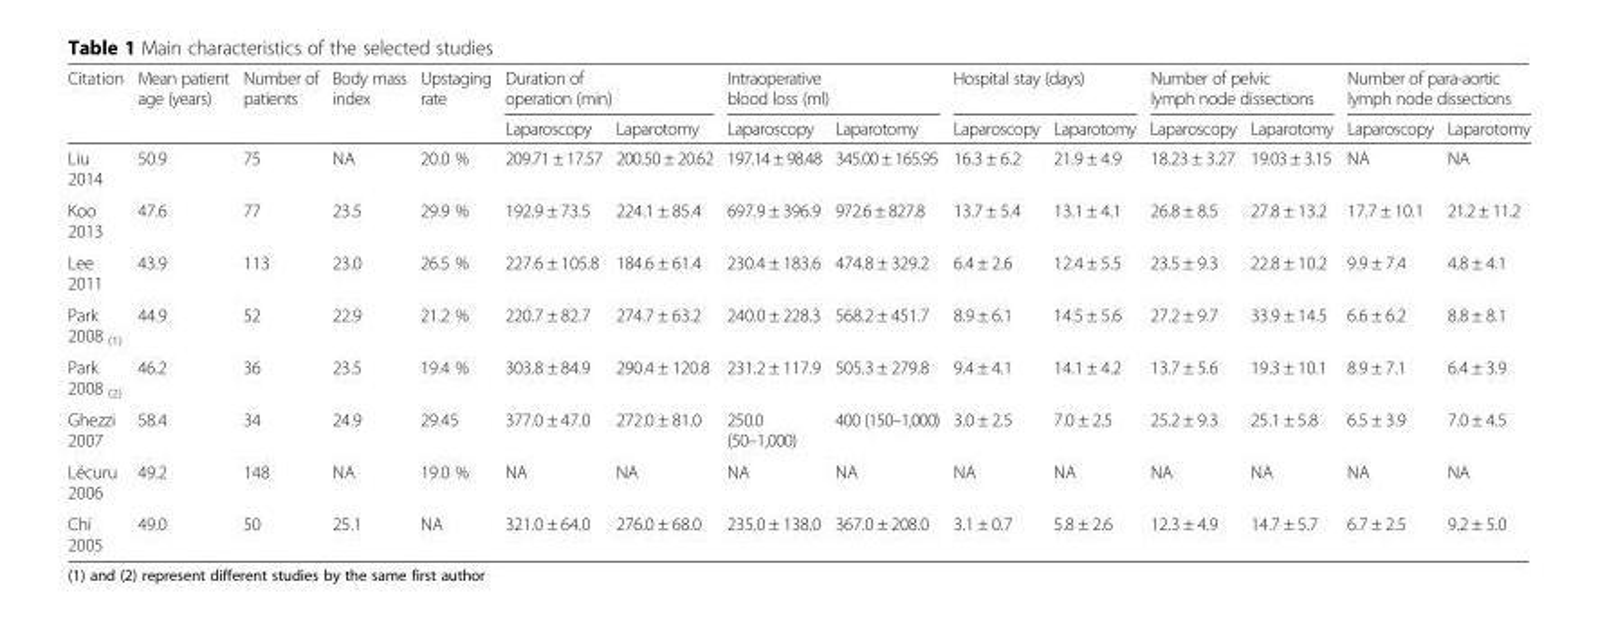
<table><thead><tr><td rowspan="2">Citation</td><td rowspan="2">Mean patient age (years)</td><td rowspan="2">Number of patients</td><td rowspan="2">Body mass index</td><td rowspan="2">Upstaging rate</td><td colspan="2">Duration of operation (min)</td><td colspan="2">Intraoperative blood loss (ml)</td><td colspan="2">Hospital stay (days)</td><td colspan="2">Number of pelvic lymph node dissections</td><td colspan="2">Number of para-aortic lymph node dissections</td></tr><tr><td>Laparoscopy</td><td>Laparotomy</td><td>Laparoscopy</td><td>Laparotomy</td><td>Laparoscopy</td><td>Laparotomy</td><td>Laparoscopy</td><td>Laparotomy</td><td>Laparoscopy</td><td>Laparotomy</td></tr></thead><tbody><tr><td>Liu 2014</td><td>50.9</td><td>75</td><td>NA</td><td>20.0 %</td><td>209.71 ± 17.57</td><td>200.50 ± 20.62</td><td>197.14 ± 98.48</td><td>345.00 ± 165.95</td><td>16.3 ± 6.2</td><td>21.9 ± 4.9</td><td>18.23 ± 3.27</td><td>19.03 ± 3.15</td><td>NA</td><td>NA</td></tr><tr><td>Koo 2013</td><td>47.6</td><td>77</td><td>23.5</td><td>29.9 %</td><td>192.9 ± 73.5</td><td>224.1 ± 85.4</td><td>697.9 ± 396.9</td><td>972.6 ± 827.8</td><td>13.7 ± 5.4</td><td>13.1 ± 4.1</td><td>26.8 ± 8.5</td><td>27.8 ± 13.2</td><td>17.7 ± 10.1</td><td>21.2 ± 11.2</td></tr><tr><td>Lee 2011</td><td>43.9</td><td>113</td><td>23.0</td><td>26.5 %</td><td>227.6 ± 105.8</td><td>184.6 ± 61.4</td><td>230.4 ± 183.6</td><td>474.8 ± 329.2</td><td>6.4 ± 2.6</td><td>12.4 ± 5.5</td><td>23.5 ± 9.3</td><td>22.8 ± 10.2</td><td>9.9 ± 7.4</td><td>4.8 ± 4.1</td></tr><tr><td>Park 2008 <sub>(1)</sub></td><td>44.9</td><td>52</td><td>22.9</td><td>21.2 %</td><td>220.7 ± 82.7</td><td>274.7 ± 63.2</td><td>240.0 ± 228.3</td><td>568.2 ± 451.7</td><td>8.9 ± 6.1</td><td>14.5 ± 5.6</td><td>27.2 ± 9.7</td><td>33.9 ± 14.5</td><td>6.6 ± 6.2</td><td>8.8 ± 8.1</td></tr><tr><td>Park 2008 <sub>(2)</sub></td><td>46.2</td><td>36</td><td>23.5</td><td>19.4 %</td><td>303.8 ± 84.9</td><td>290.4 ± 120.8</td><td>231.2 ± 117.9</td><td>505.3 ± 279.8</td><td>9.4 ± 4.1</td><td>14.1 ± 4.2</td><td>13.7 ± 5.6</td><td>19.3 ± 10.1</td><td>8.9 ± 7.1</td><td>6.4 ± 3.9</td></tr><tr><td>Ghezzi 2007</td><td>58.4</td><td>34</td><td>24.9</td><td>29.45</td><td>377.0 ± 47.0</td><td>272.0 ± 81.0</td><td>250.0 (50–1,000)</td><td>400 (150–1,000)</td><td>3.0 ± 2.5</td><td>7.0 ± 2.5</td><td>25.2 ± 9.3</td><td>25.1 ± 5.8</td><td>6.5 ± 3.9</td><td>7.0 ± 4.5</td></tr><tr><td>Lécuru 2006</td><td>49.2</td><td>148</td><td>NA</td><td>19.0 %</td><td>NA</td><td>NA</td><td>NA</td><td>NA</td><td>NA</td><td>NA</td><td>NA</td><td>NA</td><td>NA</td><td>NA</td></tr><tr><td>Chi 2005</td><td>49.0</td><td>50</td><td>25.1</td><td>NA</td><td>321.0 ± 64.0</td><td>276.0 ± 68.0</td><td>235.0 ± 138.0</td><td>367.0 ± 208.0</td><td>3.1 ± 0.7</td><td>5.8 ± 2.6</td><td>12.3 ± 4.9</td><td>14.7 ± 5.7</td><td>6.7 ± 2.5</td><td>9.2 ± 5.0</td></tr></tbody></table>